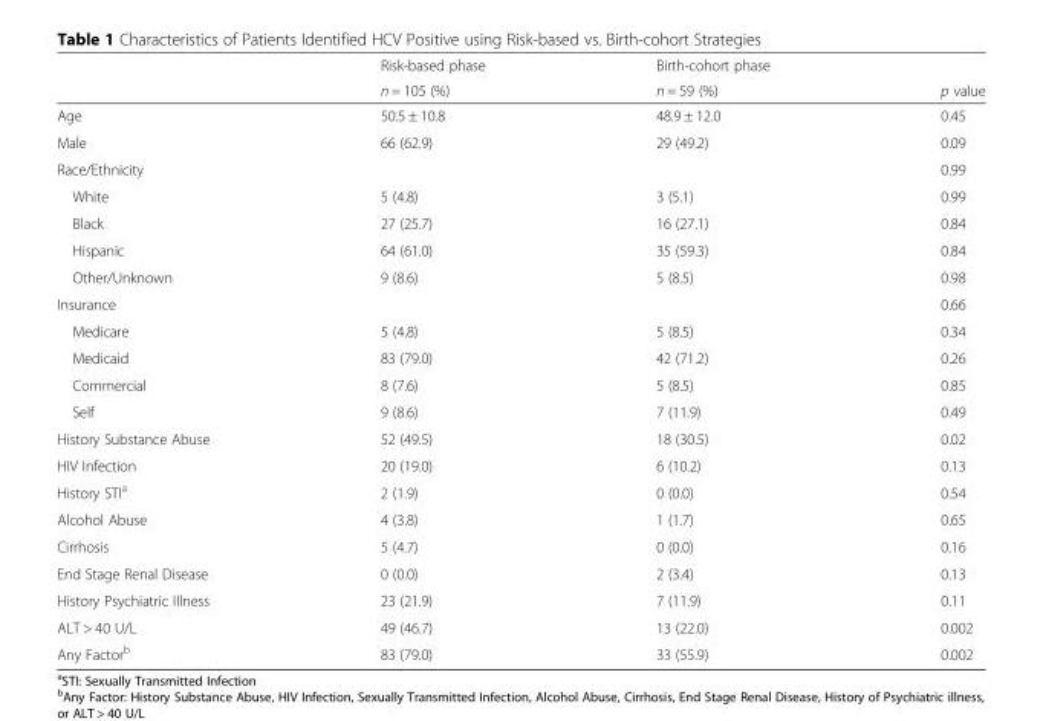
<table><thead><tr><td rowspan="2"></td><td rowspan="2">Risk-based phase n = 105 (%)</td><td rowspan="2">Birth-cohort phase n = 59 (%)</td><td rowspan="2">p value</td></tr><tr></tr></thead><tbody><tr><td>Age</td><td>50.5 ± 10.8</td><td>48.9 ± 12.0</td><td>0.45</td></tr><tr><td>Male</td><td>66 (62.9)</td><td>29 (49.2)</td><td>0.09</td></tr><tr><td>Race/Ethnicity</td><td></td><td></td><td>0.99</td></tr><tr><td>White</td><td>5 (4.8)</td><td>3 (5.1)</td><td>0.99</td></tr><tr><td>Black</td><td>27 (25.7)</td><td>16 (27.1)</td><td>0.84</td></tr><tr><td>Hispanic</td><td>64 (61.0)</td><td>35 (59.3)</td><td>0.84</td></tr><tr><td>Other/Unknown</td><td>9 (8.6)</td><td>5 (8.5)</td><td>0.98</td></tr><tr><td>Insurance</td><td></td><td></td><td>0.66</td></tr><tr><td>Medicare</td><td>5 (4.8)</td><td>5 (8.5)</td><td>0.34</td></tr><tr><td>Medicaid</td><td>83 (79.0)</td><td>42 (71.2)</td><td>0.26</td></tr><tr><td>Commercial</td><td>8 (7.6)</td><td>5 (8.5)</td><td>0.85</td></tr><tr><td>Self</td><td>9 (8.6)</td><td>7 (11.9)</td><td>0.49</td></tr><tr><td>History Substance Abuse</td><td>52 (49.5)</td><td>18 (30.5)</td><td>0.02</td></tr><tr><td>HIV Infection</td><td>20 (19.0)</td><td>6 (10.2)</td><td>0.13</td></tr><tr><td>History STI<sup>a</sup></td><td>2 (1.9)</td><td>0 (0.0)</td><td>0.54</td></tr><tr><td>Alcohol Abuse</td><td>4 (3.8)</td><td>1 (1.7)</td><td>0.65</td></tr><tr><td>Cirrhosis</td><td>5 (4.7)</td><td>0 (0.0)</td><td>0.16</td></tr><tr><td>End Stage Renal Disease</td><td>0 (0.0)</td><td>2 (3.4)</td><td>0.13</td></tr><tr><td>History Psychiatric Illness</td><td>23 (21.9)</td><td>7 (11.9)</td><td>0.11</td></tr><tr><td>ALT &gt; 40 U/L</td><td>49 (46.7)</td><td>13 (22.0)</td><td>0.002</td></tr><tr><td>Any Factor<sup>b</sup></td><td>83 (79.0)</td><td>33 (55.9)</td><td>0.002</td></tr></tbody></table>